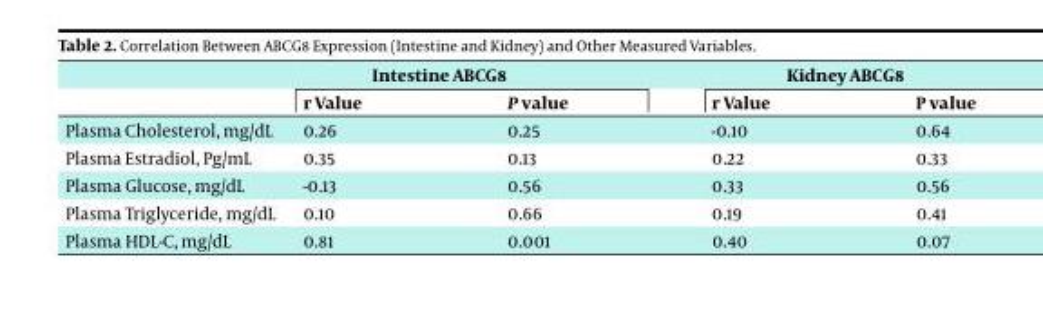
<table><thead><tr><td rowspan="2"></td><td colspan="2">Intestine ABCG8</td><td colspan="2">Kidney ABCG8</td></tr><tr><td>r Value</td><td>P value</td><td>r Value</td><td>P value</td></tr></thead><tbody><tr><td>Plasma Cholesterol, mg/dL</td><td>0.26</td><td>0.25</td><td>-0.10</td><td>0.64</td></tr><tr><td>Plasma Estradiol, Pg/mL</td><td>0.35</td><td>0.13</td><td>0.22</td><td>0.33</td></tr><tr><td>Plasma Glucose, mg/dL</td><td>-0.13</td><td>0.56</td><td>0.33</td><td>0.56</td></tr><tr><td>Plasma Triglyceride, mg/dL</td><td>0.10</td><td>0.66</td><td>0.19</td><td>0.41</td></tr><tr><td>Plasma HDL-C, mg/dL</td><td>0.81</td><td>0.001</td><td>0.40</td><td>0.07</td></tr></tbody></table>